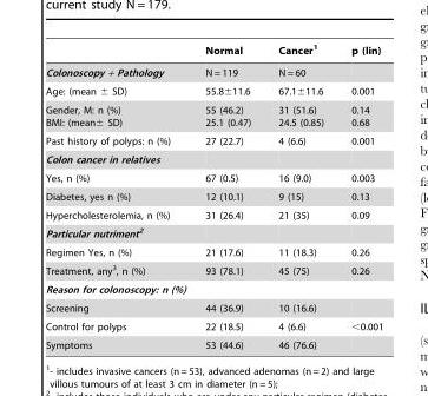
<table><thead><tr><td></td><td>Normal</td><td>Cancer<sup>1</sup></td><td>p (lin)</td></tr></thead><tbody><tr><td>Colonoscopy + Pathology</td><td>N = 119</td><td>N = 60</td><td></td></tr><tr><td>Age: (mean ± SD)</td><td>55.8±11.6</td><td>67.1±11.6</td><td>0.001</td></tr><tr><td>Gender, M: n (%) BMI: (mean± SD)</td><td>55 (46.2) 25.1 (0.47)</td><td>31 (51.6) 24.5 (0.85)</td><td>0.14 0.68</td></tr><tr><td>Past history of polyps: n (%)</td><td>27 (22.7)</td><td>4 (6.6)</td><td>0.001</td></tr><tr><td colspan="4">Colon cancer in relatives</td></tr><tr><td>Yes, n (%)</td><td>67 (0.5)</td><td>16 (9.0)</td><td>0.003</td></tr><tr><td>Diabetes, yes n (%)</td><td>12 (10.1)</td><td>9 (15)</td><td>0.13</td></tr><tr><td>Hypercholesterolemia, n (%)</td><td>31 (26.4)</td><td>21 (35)</td><td>0.09</td></tr><tr><td colspan="4">Particular nutriment2</td></tr><tr><td>Regimen Yes, n (%)</td><td>21 (17.6)</td><td>11 (18.3)</td><td>0.26</td></tr><tr><td>Treatment, any<sup>3</sup>, n (%)</td><td>93 (78.1)</td><td>45 (75)</td><td>0.26</td></tr><tr><td colspan="4">Reason for colonoscopy: n (%)</td></tr><tr><td>Screening</td><td>44 (36.9)</td><td>10 (16.6)</td><td></td></tr><tr><td>Control for polyps</td><td>22 (18.5)</td><td>4 (6.6)</td><td>&lt;0.001</td></tr><tr><td>Symptoms</td><td>53 (44.6)</td><td>46 (76.6)</td><td></td></tr></tbody></table>